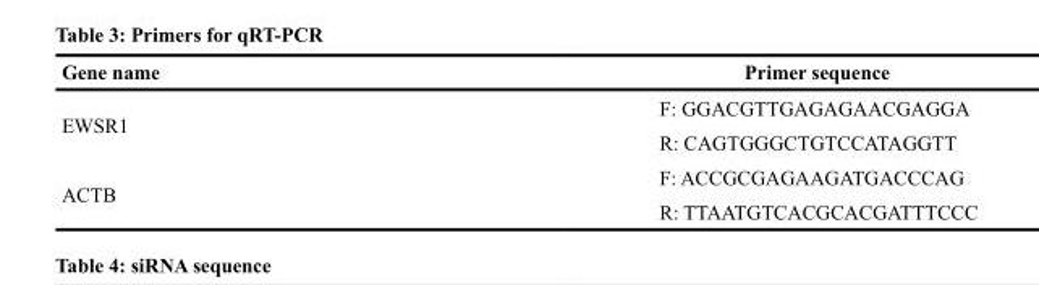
<table><thead><tr><td>Gene name</td><td>Primer sequence</td></tr></thead><tbody><tr><td rowspan="2">EWSR1</td><td>F: GGACGTTGAGAGAACGAGGA</td></tr><tr><td>R: CAGTGGGCTGTCCATAGGTT</td></tr><tr><td rowspan="2">ACTB</td><td>F: ACCGCGAGAAGATGACCCAG</td></tr><tr><td>R: TTAATGTCACGCACGATTTCCC</td></tr></tbody></table>